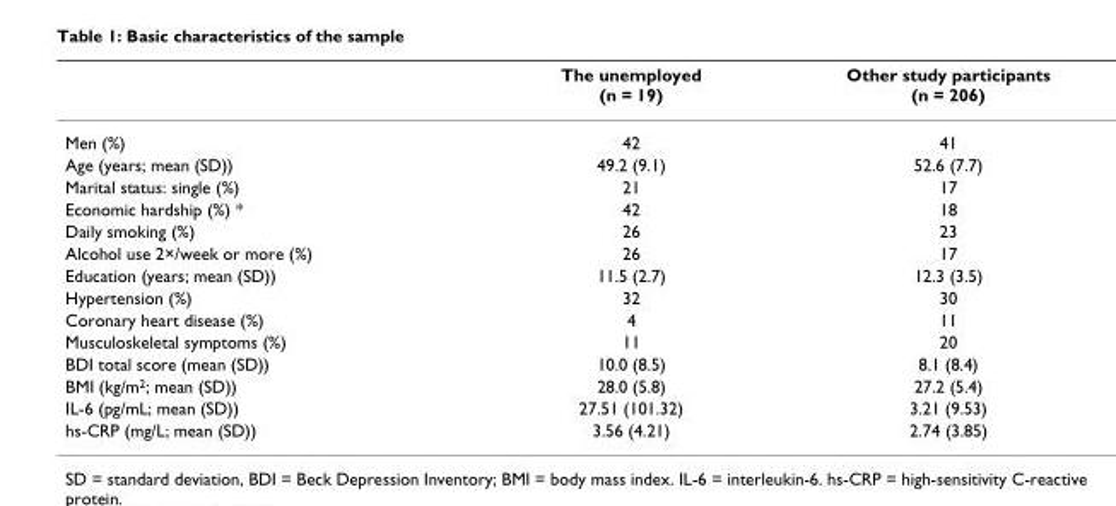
<table><thead><tr><td></td><td>The unemployed (n = 19)</td><td>Other study participants (n = 206)</td></tr></thead><tbody><tr><td>Men (%)</td><td>42</td><td>41</td></tr><tr><td>Age (years; mean (SD))</td><td>49.2 (9.1)</td><td>52.6 (7.7)</td></tr><tr><td>Marital status: single (%)</td><td>21</td><td>17</td></tr><tr><td>Economic hardship (%) *</td><td>42</td><td>18</td></tr><tr><td>Daily smoking (%)</td><td>26</td><td>23</td></tr><tr><td>Alcohol use 2×/week or more (%)</td><td>26</td><td>17</td></tr><tr><td>Education (years; mean (SD))</td><td>11.5 (2.7)</td><td>12.3 (3.5)</td></tr><tr><td>Hypertension (%)</td><td>32</td><td>30</td></tr><tr><td>Coronary heart disease (%)</td><td>4</td><td>11</td></tr><tr><td>Musculoskeletal symptoms (%)</td><td>11</td><td>20</td></tr><tr><td>BDI total score (mean (SD))</td><td>10.0 (8.5)</td><td>8.1 (8.4)</td></tr><tr><td>BMI (kg/m<sup>2</sup>; mean (SD))</td><td>28.0 (5.8)</td><td>27.2 (5.4)</td></tr><tr><td>IL-6 (pg/mL; mean (SD))</td><td>27.51 (101.32)</td><td>3.21 (9.53)</td></tr><tr><td>hs-CRP (mg/L; mean (SD))</td><td>3.56 (4.21)</td><td>2.74 (3.85)</td></tr></tbody></table>